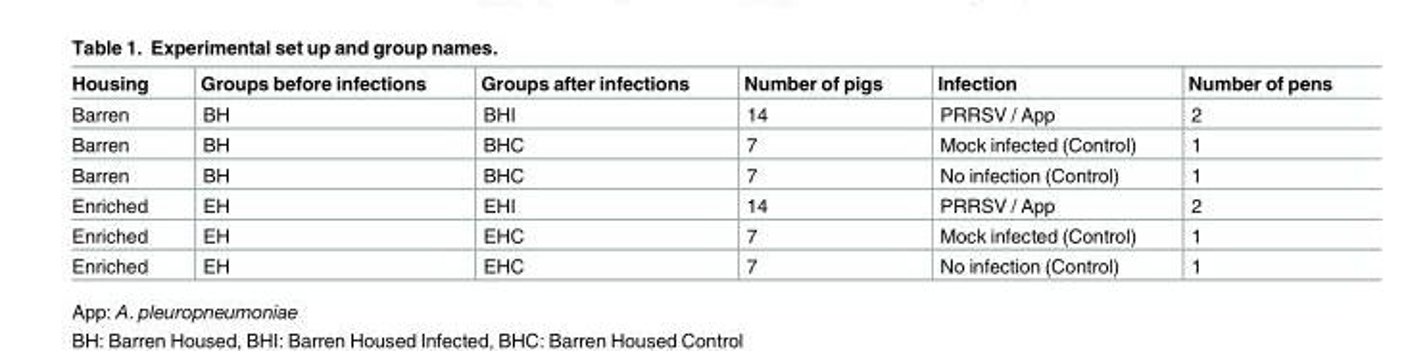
<table><thead><tr><td>Housing</td><td>Groups before infections</td><td>Groups after infections</td><td>Number of pigs</td><td>Infection</td><td>Number of pens</td></tr></thead><tbody><tr><td>Barren</td><td>BH</td><td>BHI</td><td>14</td><td>PRRSV / App</td><td>2</td></tr><tr><td>Barren</td><td>BH</td><td>BHC</td><td>7</td><td>Mock infected (Control)</td><td>1</td></tr><tr><td>Barren</td><td>BH</td><td>BHC</td><td>7</td><td>No infection (Control)</td><td>1</td></tr><tr><td>Enriched</td><td>EH</td><td>EHI</td><td>14</td><td>PRRSV / App</td><td>2</td></tr><tr><td>Enriched</td><td>EH</td><td>EHC</td><td>7</td><td>Mock infected (Control)</td><td>1</td></tr><tr><td>Enriched</td><td>EH</td><td>EHC</td><td>7</td><td>No infection (Control)</td><td>1</td></tr></tbody></table>